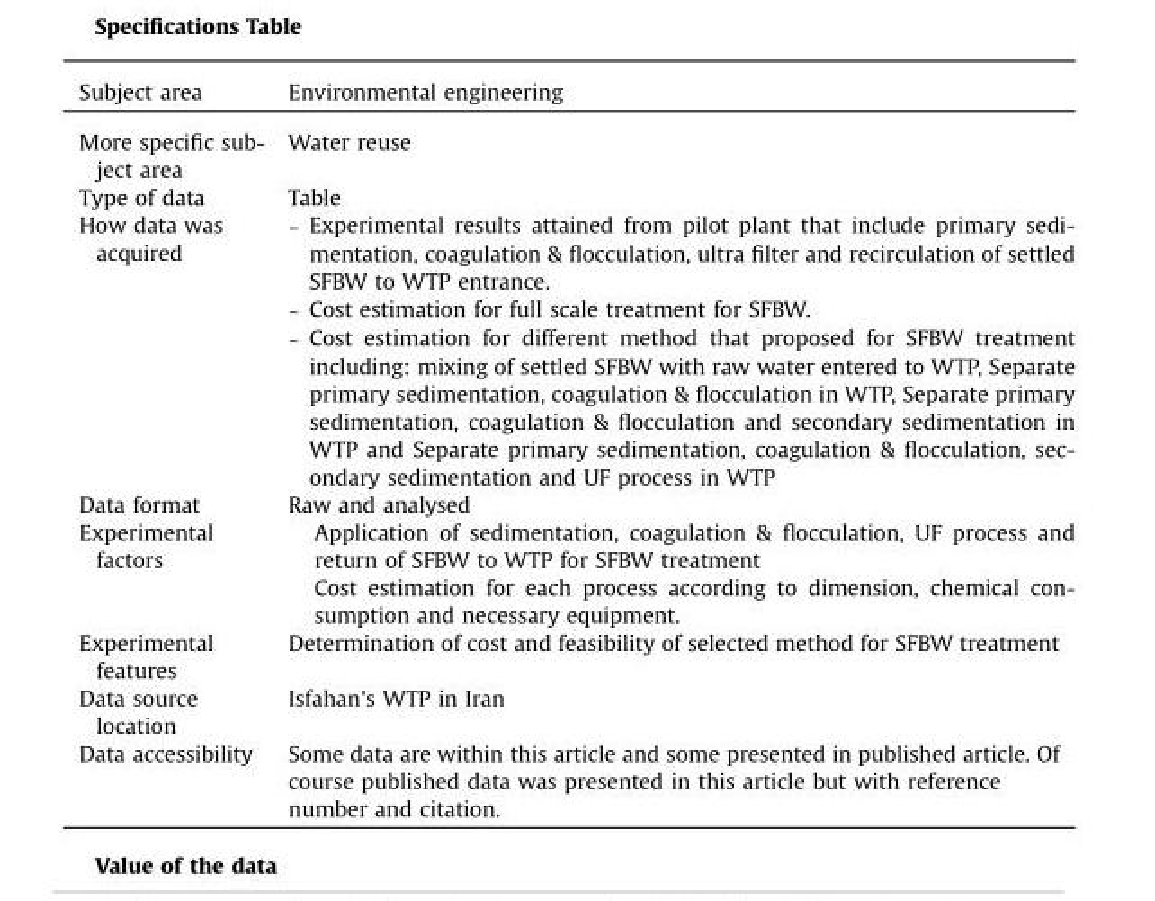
<table><thead><tr><td>Subject area</td><td>Environmental engineering</td></tr></thead><tbody><tr><td>More specific sub- ject area</td><td>Water reuse</td></tr><tr><td>Type of data</td><td>Table</td></tr><tr><td>How data was acquired</td><td>– Experimental results attained from pilot plant that include primary sedi- mentation, coagulation &amp; flocculation, ultra filter and recirculation of settled SFBW to WTP entrance. – Cost estimation for full scale treatment for SFBW. – Cost estimation for different method that proposed for SFBW treatment including: mixing of settled SFBW with raw water entered to WTP, Separate primary sedimentation, coagulation &amp; flocculation in WTP, Separate primary sedimentation, coagulation &amp; flocculation and secondary sedimentation in WTP and Separate primary sedimentation, coagulation &amp; flocculation, sec- ondary sedimentation and UF process in WTP</td></tr><tr><td>Data format</td><td>Raw and analysed</td></tr><tr><td>Experimental factors</td><td>Application of sedimentation, coagulation &amp; flocculation, UF process and return of SFBW to WTP for SFBW treatment Cost estimation for each process according to dimension, chemical con- sumption and necessary equipment.</td></tr><tr><td>Experimental features</td><td>Determination of cost and feasibility of selected method for SFBW treatment</td></tr><tr><td>Data source location</td><td>Isfahan&#x27;s WTP in Iran</td></tr><tr><td>Data accessibility</td><td>Some data are within this article and some presented in published article. Of course published data was presented in this article but with reference number and citation.</td></tr></tbody></table>